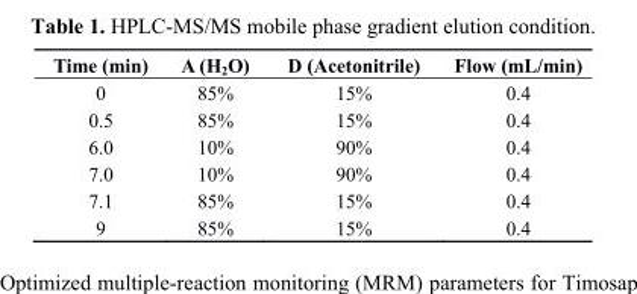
<table><thead><tr><td>Time (min)</td><td>A (H<sub>2</sub>O)</td><td>D (Acetonitrile)</td><td>Flow (mL/min)</td></tr></thead><tbody><tr><td>0</td><td>85%</td><td>15%</td><td>0.4</td></tr><tr><td>0.5</td><td>85%</td><td>15%</td><td>0.4</td></tr><tr><td>6.0</td><td>10%</td><td>90%</td><td>0.4</td></tr><tr><td>7.0</td><td>10%</td><td>90%</td><td>0.4</td></tr><tr><td>7.1</td><td>85%</td><td>15%</td><td>0.4</td></tr><tr><td>9</td><td>85%</td><td>15%</td><td>0.4</td></tr></tbody></table>